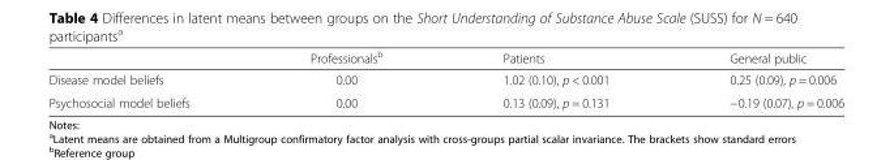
<table><thead><tr><td></td><td>Professionals<sup>b</sup></td><td>Patients</td><td>General public</td></tr></thead><tbody><tr><td>Disease model beliefs</td><td>0.00</td><td>1.02 (0.10), p &lt; 0.001</td><td>0.25 (0.09), p = 0.006</td></tr><tr><td>Psychosocial model beliefs</td><td>0.00</td><td>0.13 (0.09), p = 0.131</td><td>−0.19 (0.07), p = 0.006</td></tr></tbody></table>